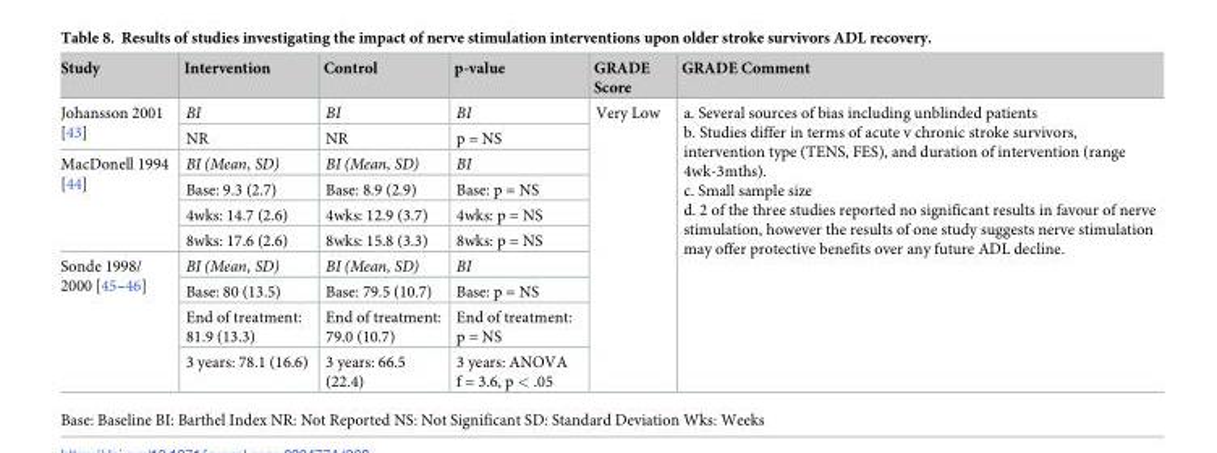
<table><thead><tr><td>Study</td><td>Intervention</td><td>Control</td><td>p-value</td><td>GRADE Score</td><td>GRADE Comment</td></tr></thead><tbody><tr><td rowspan="2">Johansson 2001 [43]</td><td>BI</td><td>BI</td><td>BI</td><td rowspan="10">Very Low</td><td rowspan="10">a. Several sources of bias including unblinded patients b. Studies differ in terms of acute v chronic stroke survivors, intervention type (TENS, FES), and duration of intervention (range 4wk-3mths). c. Small sample size d. 2 of the three studies reported no significant results in favour of nerve stimulation, however the results of one study suggests nerve stimulation may offer protective benefits over any future ADL decline.</td></tr><tr><td>NR</td><td>NR</td><td>p = NS</td></tr><tr><td rowspan="4">MacDonell 1994 [44]</td><td>BI (Mean, SD)</td><td>BI (Mean, SD)</td><td>BI</td></tr><tr><td>Base: 9.3 (2.7)</td><td>Base: 8.9 (2.9)</td><td>Base: p = NS</td></tr><tr><td>4wks: 14.7 (2.6)</td><td>4wks: 12.9 (3.7)</td><td>4wks: p = NS</td></tr><tr><td>8wks: 17.6 (2.6)</td><td>8wks: 15.8 (3.3)</td><td>8wks: p = NS</td></tr><tr><td rowspan="4">Sonde 1998/ 2000 [45–46]</td><td>BI (Mean, SD)</td><td>BI (Mean, SD)</td><td>BI</td></tr><tr><td>Base: 80 (13.5)</td><td>Base: 79.5 (10.7)</td><td>Base: p = NS</td></tr><tr><td>End of treatment: 81.9 (13.3)</td><td>End of treatment: 79.0 (10.7)</td><td>End of treatment: p = NS</td></tr><tr><td>3 years: 78.1 (16.6)</td><td>3 years: 66.5 (22.4)</td><td>3 years: ANOVA f = 3.6, p &lt; .05</td></tr></tbody></table>